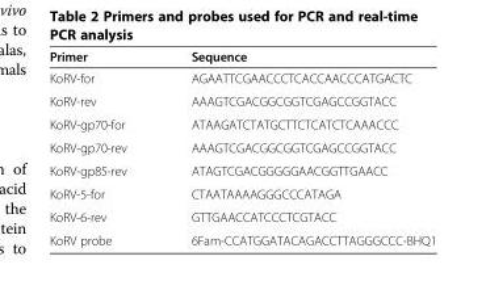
<table><thead><tr><td>Primer</td><td>Sequence</td></tr></thead><tbody><tr><td>KoRV-for</td><td>AGAATTCGAACCCTCACCAACCCATGACTC</td></tr><tr><td>KoRV-rev</td><td>AAAGTCGACGGCGGTCGAGCCGGTACC</td></tr><tr><td>KoRV-gp70-for</td><td>ATAAGATCTATGCTTCTCATCTCAAACCC</td></tr><tr><td>KoRV-gp70-rev</td><td>AAAGTCGACGGCGGTCGAGCCGGTACC</td></tr><tr><td>KoRV-gp85-rev</td><td>ATAGTCGACGGGGGAACGGTTGAACC</td></tr><tr><td>KoRV-5-for</td><td>CTAATAAAAGGGCCCATAGA</td></tr><tr><td>KoRV-6-rev</td><td>GTTGAACCATCCCTCGTACC</td></tr><tr><td>KoRV probe</td><td>6Fam-CCATGGATACAGACCTTAGGGCCC-BHQ1</td></tr></tbody></table>